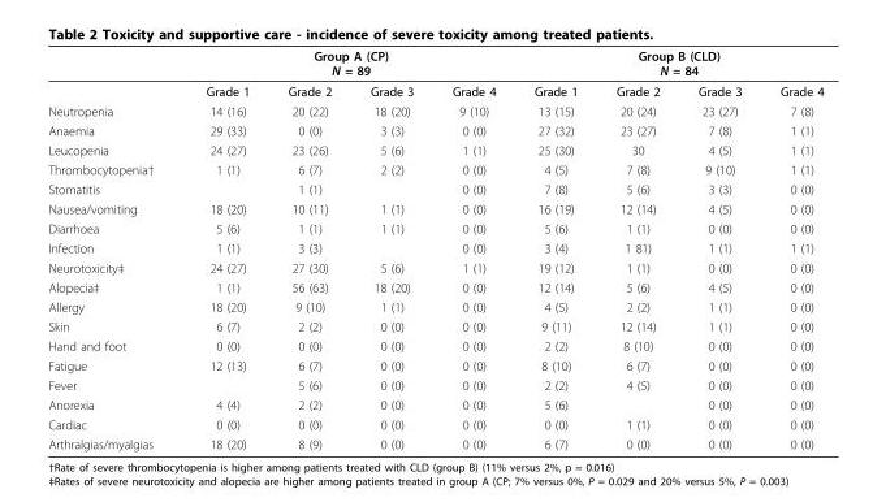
<table><thead><tr><td rowspan="2"></td><td colspan="4">Group A (CP) N = 89</td><td colspan="4">Group B (CLD) N = 84</td></tr><tr><td>Grade 1</td><td>Grade 2</td><td>Grade 3</td><td>Grade 4</td><td>Grade 1</td><td>Grade 2</td><td>Grade 3</td><td>Grade 4</td></tr></thead><tbody><tr><td>Neutropenia</td><td>14 (16)</td><td>20 (22)</td><td>18 (20)</td><td>9 (10)</td><td>13 (15)</td><td>20 (24)</td><td>23 (27)</td><td>7 (8)</td></tr><tr><td>Anaemia</td><td>29 (33)</td><td>0 (0)</td><td>3 (3)</td><td>0 (0)</td><td>27 (32)</td><td>23 (27)</td><td>7 (8)</td><td>1 (1)</td></tr><tr><td>Leucopenia</td><td>24 (27)</td><td>23 (26)</td><td>5 (6)</td><td>1 (1)</td><td>25 (30)</td><td>30</td><td>4 (5)</td><td>1 (1)</td></tr><tr><td>Thrombocytopenia†</td><td>1 (1)</td><td>6 (7)</td><td>2 (2)</td><td>0 (0)</td><td>4 (5)</td><td>7 (8)</td><td>9 (10)</td><td>1 (1)</td></tr><tr><td>Stomatitis</td><td></td><td>1 (1)</td><td></td><td>0 (0)</td><td>7 (8)</td><td>5 (6)</td><td>3 (3)</td><td>0 (0)</td></tr><tr><td>Nausea/vomiting</td><td>18 (20)</td><td>10 (11)</td><td>1 (1)</td><td>0 (0)</td><td>16 (19)</td><td>12 (14)</td><td>4 (5)</td><td>0 (0)</td></tr><tr><td>Diarrhoea</td><td>5 (6)</td><td>1 (1)</td><td>1 (1)</td><td>0 (0)</td><td>5 (6)</td><td>1 (1)</td><td>0 (0)</td><td>0 (0)</td></tr><tr><td>Infection</td><td>1 (1)</td><td>3 (3)</td><td></td><td>0 (0)</td><td>3 (4)</td><td>1 81)</td><td>1 (1)</td><td>1 (1)</td></tr><tr><td>Neurotoxicity‡</td><td>24 (27)</td><td>27 (30)</td><td>5 (6)</td><td>1 (1)</td><td>19 (12)</td><td>1 (1)</td><td>0 (0)</td><td>0 (0)</td></tr><tr><td>Alopecia‡</td><td>1 (1)</td><td>56 (63)</td><td>18 (20)</td><td>0 (0)</td><td>12 (14)</td><td>5 (6)</td><td>4 (5)</td><td>0 (0)</td></tr><tr><td>Allergy</td><td>18 (20)</td><td>9 (10)</td><td>1 (1)</td><td>0 (0)</td><td>4 (5)</td><td>2 (2)</td><td>1 (1)</td><td>0 (0)</td></tr><tr><td>Skin</td><td>6 (7)</td><td>2 (2)</td><td>0 (0)</td><td>0 (0)</td><td>9 (11)</td><td>12 (14)</td><td>1 (1)</td><td>0 (0)</td></tr><tr><td>Hand and foot</td><td>0 (0)</td><td>0 (0)</td><td>0 (0)</td><td>0 (0)</td><td>2 (2)</td><td>8 (10)</td><td>0 (0)</td><td>0 (0)</td></tr><tr><td>Fatigue</td><td>12 (13)</td><td>6 (7)</td><td>0 (0)</td><td>0 (0)</td><td>8 (10)</td><td>6 (7)</td><td>0 (0)</td><td>0 (0)</td></tr><tr><td>Fever</td><td></td><td>5 (6)</td><td>0 (0)</td><td>0 (0)</td><td>2 (2)</td><td>4 (5)</td><td>0 (0)</td><td>0 (0)</td></tr><tr><td>Anorexia</td><td>4 (4)</td><td>2 (2)</td><td>0 (0)</td><td>0 (0)</td><td>5 (6)</td><td></td><td>0 (0)</td><td>0 (0)</td></tr><tr><td>Cardiac</td><td>0 (0)</td><td>0 (0)</td><td>0 (0)</td><td>0 (0)</td><td>0 (0)</td><td>1 (1)</td><td>0 (0)</td><td>0 (0)</td></tr><tr><td>Arthralgias/myalgias</td><td>18 (20)</td><td>8 (9)</td><td>0 (0)</td><td>0 (0)</td><td>6 (7)</td><td>0 (0)</td><td>0 (0)</td><td>0 (0)</td></tr></tbody></table>